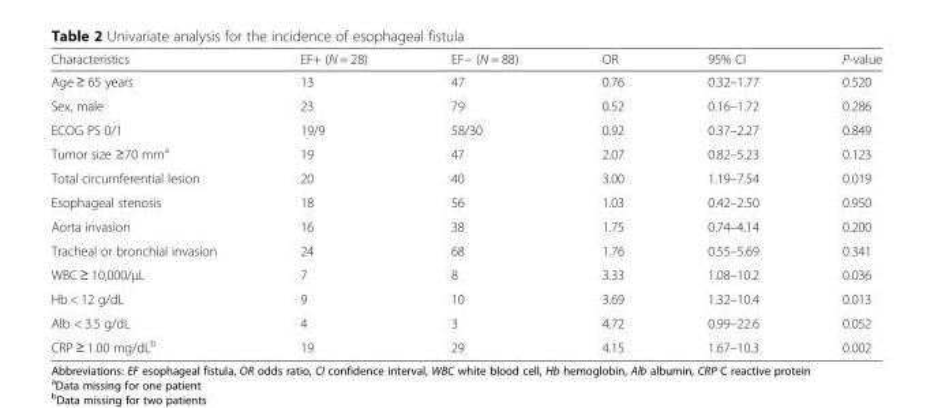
<table><thead><tr><td>Characteristics</td><td>EF+ (N = 28)</td><td>EF− (N = 88)</td><td>OR</td><td>95% CI</td><td>P-value</td></tr></thead><tbody><tr><td>Age ≥ 65 years</td><td>13</td><td>47</td><td>0.76</td><td>0.32–1.77</td><td>0.520</td></tr><tr><td>Sex, male</td><td>23</td><td>79</td><td>0.52</td><td>0.16–1.72</td><td>0.286</td></tr><tr><td>ECOG PS 0/1</td><td>19/9</td><td>58/30</td><td>0.92</td><td>0.37–2.27</td><td>0.849</td></tr><tr><td>Tumor size ≥70 mm<sup>a</sup></td><td>19</td><td>47</td><td>2.07</td><td>0.82–5.23</td><td>0.123</td></tr><tr><td>Total circumferential lesion</td><td>20</td><td>40</td><td>3.00</td><td>1.19–7.54</td><td>0.019</td></tr><tr><td>Esophageal stenosis</td><td>18</td><td>56</td><td>1.03</td><td>0.42–2.50</td><td>0.950</td></tr><tr><td>Aorta invasion</td><td>16</td><td>38</td><td>1.75</td><td>0.74–4.14</td><td>0.200</td></tr><tr><td>Tracheal or bronchial invasion</td><td>24</td><td>68</td><td>1.76</td><td>0.55–5.69</td><td>0.341</td></tr><tr><td>WBC ≥ 10,000/μL</td><td>7</td><td>8</td><td>3.33</td><td>1.08–10.2</td><td>0.036</td></tr><tr><td>Hb &lt; 12 g/dL</td><td>9</td><td>10</td><td>3.69</td><td>1.32–10.4</td><td>0.013</td></tr><tr><td>Alb &lt; 3.5 g/dL</td><td>4</td><td>3</td><td>4.72</td><td>0.99–22.6</td><td>0.052</td></tr><tr><td>CRP ≥ 1.00 mg/dL<sup>b</sup></td><td>19</td><td>29</td><td>4.15</td><td>1.67–10.3</td><td>0.002</td></tr></tbody></table>